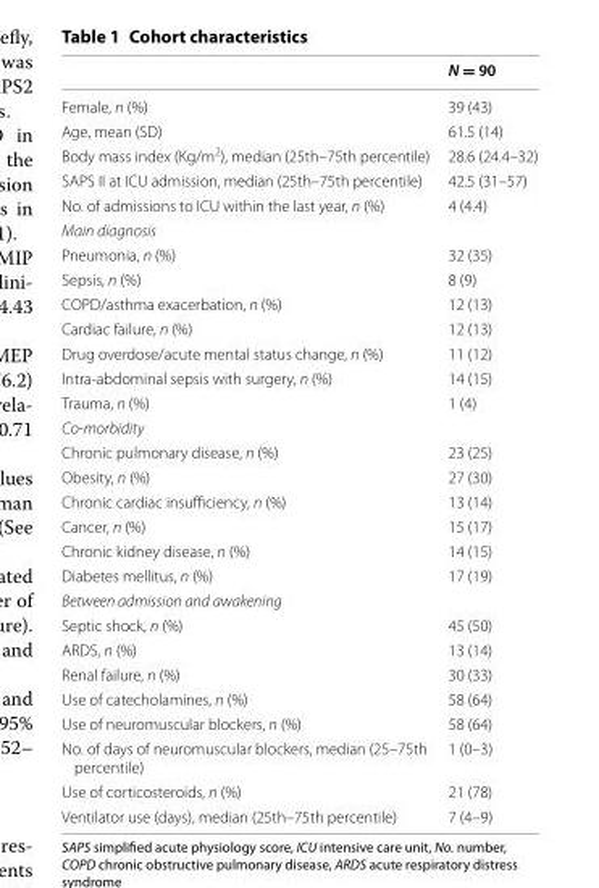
<table><thead><tr><td></td><td>N = 90</td></tr></thead><tbody><tr><td>Female, n (%)</td><td>39 (43)</td></tr><tr><td>Age, mean (SD)</td><td>61.5 (14)</td></tr><tr><td>Body mass index (Kg/m<sup>2</sup>), median (25th–75th percentile)</td><td>28.6 (24.4–32)</td></tr><tr><td>SAPS II at ICU admission, median (25th–75th percentile)</td><td>42.5 (31–57)</td></tr><tr><td>No. of admissions to ICU within the last year, n (%)</td><td>4 (4.4)</td></tr><tr><td colspan="2">Main diagnosis</td></tr><tr><td>Pneumonia, n (%)</td><td>32 (35)</td></tr><tr><td>Sepsis, n (%)</td><td>8 (9)</td></tr><tr><td>COPD/asthma exacerbation, n (%)</td><td>12 (13)</td></tr><tr><td>Cardiac failure, n (%)</td><td>12 (13)</td></tr><tr><td>Drug overdose/acute mental status change, n (%)</td><td>11 (12)</td></tr><tr><td>Intra-abdominal sepsis with surgery, n (%)</td><td>14 (15)</td></tr><tr><td>Trauma, n (%)</td><td>1 (4)</td></tr><tr><td colspan="2">Co-morbidity</td></tr><tr><td>Chronic pulmonary disease, n (%)</td><td>23 (25)</td></tr><tr><td>Obesity, n (%)</td><td>27 (30)</td></tr><tr><td>Chronic cardiac insufficiency, n (%)</td><td>13 (14)</td></tr><tr><td>Cancer, n (%)</td><td>15 (17)</td></tr><tr><td>Chronic kidney disease, n (%)</td><td>14 (15)</td></tr><tr><td>Diabetes mellitus, n (%)</td><td>17 (19)</td></tr><tr><td colspan="2">Between admission and awakening</td></tr><tr><td>Septic shock, n (%)</td><td>45 (50)</td></tr><tr><td>ARDS, n (%)</td><td>13 (14)</td></tr><tr><td>Renal failure, n (%)</td><td>30 (33)</td></tr><tr><td>Use of catecholamines, n (%)</td><td>58 (64)</td></tr><tr><td>Use of neuromuscular blockers, n (%)</td><td>58 (64)</td></tr><tr><td>No. of days of neuromuscular blockers, median (25–75th percentile)</td><td>1 (0–3)</td></tr><tr><td>Use of corticosteroids, n (%)</td><td>21 (78)</td></tr><tr><td>Ventilator use (days), median (25th–75th percentile)</td><td>7 (4–9)</td></tr></tbody></table>